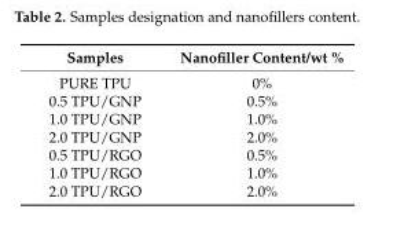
<table><thead><tr><td>Samples</td><td>Nanofiller Content/wt %</td></tr></thead><tbody><tr><td>PURE TPU</td><td>0%</td></tr><tr><td>0.5 TPU/GNP</td><td>0.5%</td></tr><tr><td>1.0 TPU/GNP</td><td>1.0%</td></tr><tr><td>2.0 TPU/GNP</td><td>2.0%</td></tr><tr><td>0.5 TPU/RGO</td><td>0.5%</td></tr><tr><td>1.0 TPU/RGO</td><td>1.0%</td></tr><tr><td>2.0 TPU/RGO</td><td>2.0%</td></tr></tbody></table>